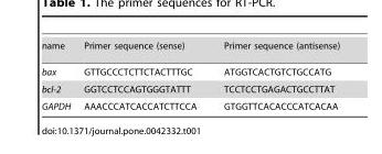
<table><tbody><tr><td>name</td><td>Primer sequence (sense)</td><td>Primer sequence (antisense)</td></tr><tr><td>bax</td><td>GTTGCCCTCTTCTACTTTGC</td><td>ATGGTCACTGTCTGCCATG</td></tr><tr><td>bcl-2</td><td>GGTCCTCCAGTGGGTATTT</td><td>TCCTCCTGAGACTGCCTTAT</td></tr><tr><td>GAPDH</td><td>AAACCCATCACCATCTTCCA</td><td>GTGGTTCACACCCATCACAA</td></tr></tbody></table>